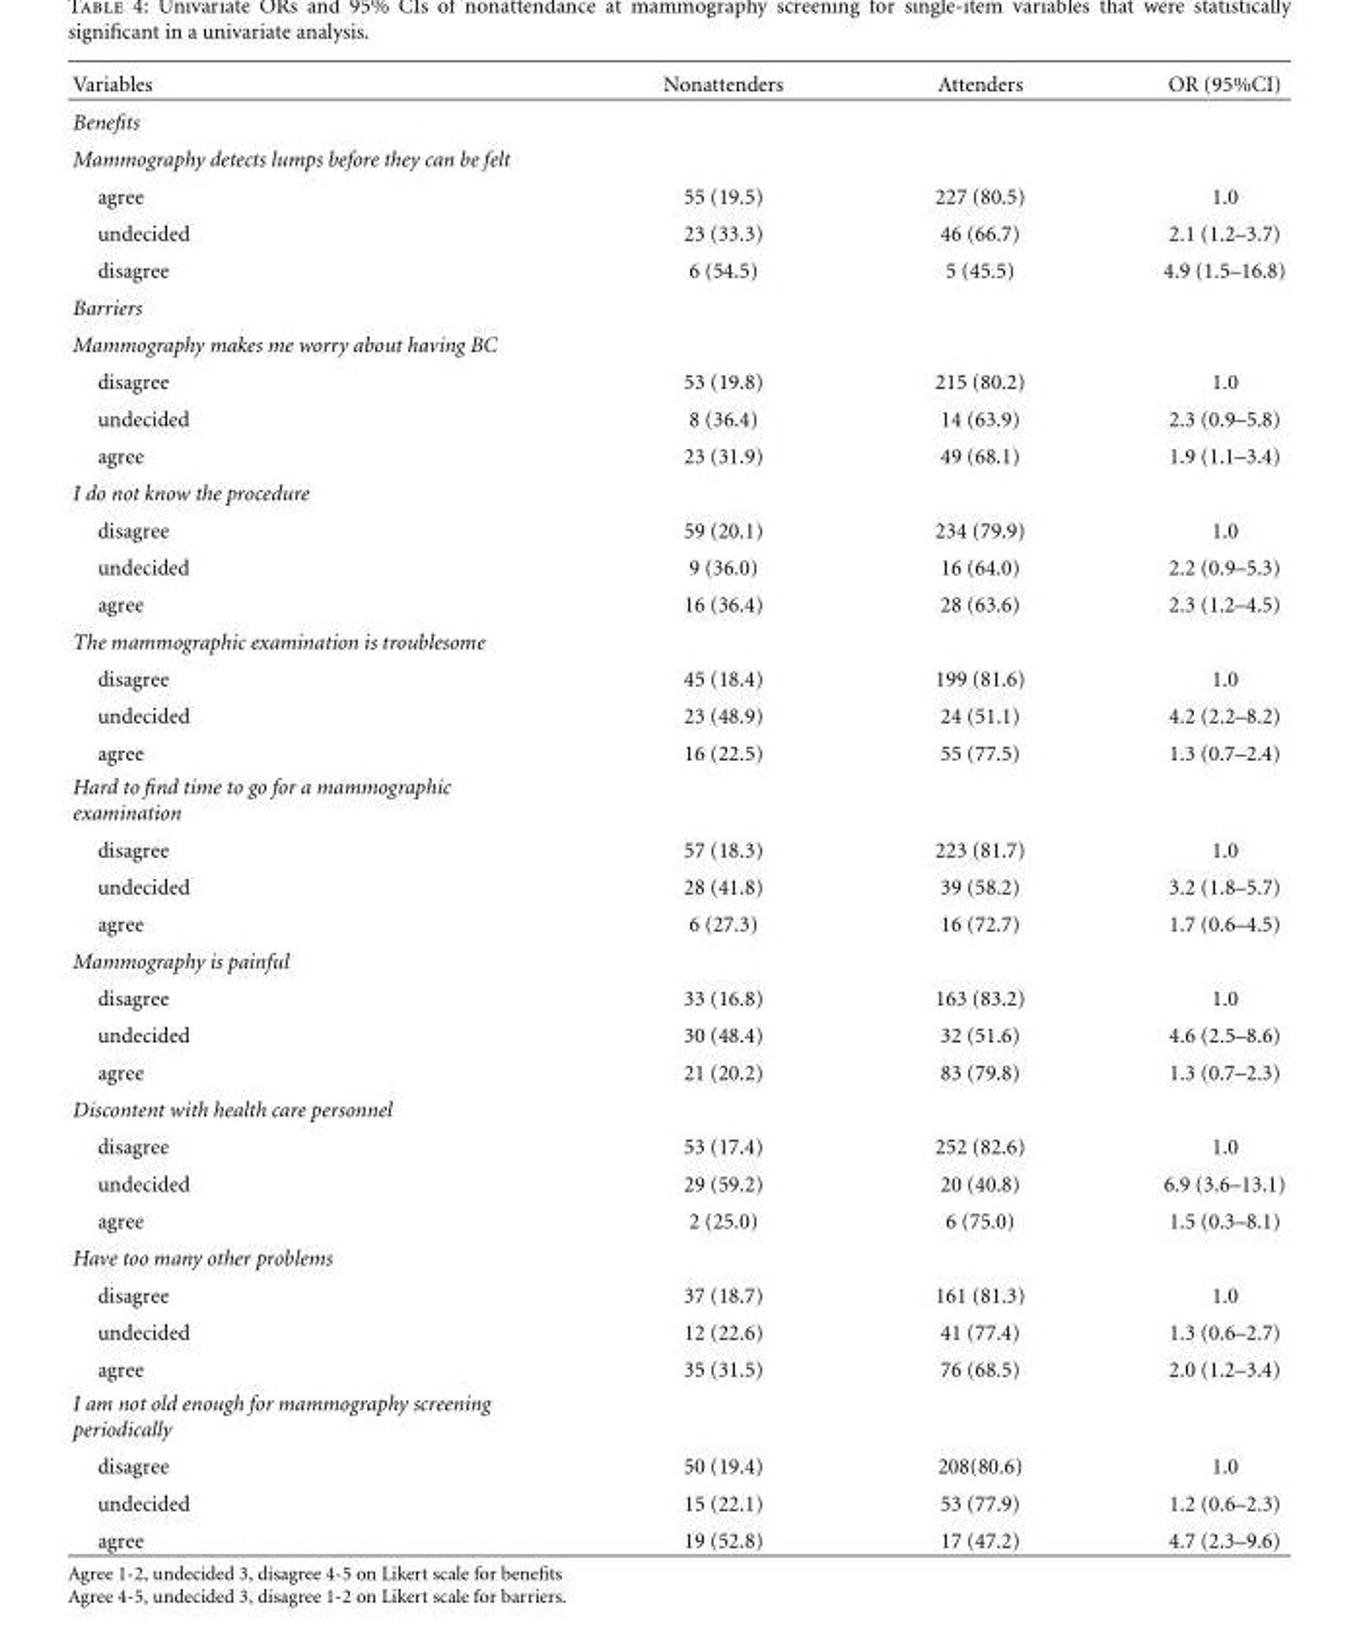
<table><thead><tr><td>Variables</td><td>Nonattenders</td><td>Attenders</td><td>OR (95%CI)</td></tr></thead><tbody><tr><td colspan="4">Benefits</td></tr><tr><td colspan="4">Mammography detects lumps before they can be felt</td></tr><tr><td>agree</td><td>55 (19.5)</td><td>227 (80.5)</td><td>1.0</td></tr><tr><td>undecided</td><td>23 (33.3)</td><td>46 (66.7)</td><td>2.1 (1.2–3.7)</td></tr><tr><td>disagree</td><td>6 (54.5)</td><td>5 (45.5)</td><td>4.9 (1.5–16.8)</td></tr><tr><td colspan="4">Barriers</td></tr><tr><td colspan="4">Mammography makes me worry about having BC</td></tr><tr><td>disagree</td><td>53 (19.8)</td><td>215 (80.2)</td><td>1.0</td></tr><tr><td>undecided</td><td>8 (36.4)</td><td>14 (63.9)</td><td>2.3 (0.9–5.8)</td></tr><tr><td>agree</td><td>23 (31.9)</td><td>49 (68.1)</td><td>1.9 (1.1–3.4)</td></tr><tr><td colspan="4">I do not know the procedure</td></tr><tr><td>disagree</td><td>59 (20.1)</td><td>234 (79.9)</td><td>1.0</td></tr><tr><td>undecided</td><td>9 (36.0)</td><td>16 (64.0)</td><td>2.2 (0.9–5.3)</td></tr><tr><td>agree</td><td>16 (36.4)</td><td>28 (63.6)</td><td>2.3 (1.2–4.5)</td></tr><tr><td colspan="4">The mammographic examination is troublesome</td></tr><tr><td>disagree</td><td>45 (18.4)</td><td>199 (81.6)</td><td>1.0</td></tr><tr><td>undecided</td><td>23 (48.9)</td><td>24 (51.1)</td><td>4.2 (2.2–8.2)</td></tr><tr><td>agree</td><td>16 (22.5)</td><td>55 (77.5)</td><td>1.3 (0.7–2.4)</td></tr><tr><td colspan="4">Hard to find time to go for a mammographic examination</td></tr><tr><td>disagree</td><td>57 (18.3)</td><td>223 (81.7)</td><td>1.0</td></tr><tr><td>undecided</td><td>28 (41.8)</td><td>39 (58.2)</td><td>3.2 (1.8–5.7)</td></tr><tr><td>agree</td><td>6 (27.3)</td><td>16 (72.7)</td><td>1.7 (0.6–4.5)</td></tr><tr><td colspan="4">Mammography is painful</td></tr><tr><td>disagree</td><td>33 (16.8)</td><td>163 (83.2)</td><td>1.0</td></tr><tr><td>undecided</td><td>30 (48.4)</td><td>32 (51.6)</td><td>4.6 (2.5–8.6)</td></tr><tr><td>agree</td><td>21 (20.2)</td><td>83 (79.8)</td><td>1.3 (0.7–2.3)</td></tr><tr><td colspan="4">Discontent with health care personnel</td></tr><tr><td>disagree</td><td>53 (17.4)</td><td>252 (82.6)</td><td>1.0</td></tr><tr><td>undecided</td><td>29 (59.2)</td><td>20 (40.8)</td><td>6.9 (3.6–13.1)</td></tr><tr><td>agree</td><td>2 (25.0)</td><td>6 (75.0)</td><td>1.5 (0.3–8.1)</td></tr><tr><td colspan="4">Have too many other problems</td></tr><tr><td>disagree</td><td>37 (18.7)</td><td>161 (81.3)</td><td>1.0</td></tr><tr><td>undecided</td><td>12 (22.6)</td><td>41 (77.4)</td><td>1.3 (0.6–2.7)</td></tr><tr><td>agree</td><td>35 (31.5)</td><td>76 (68.5)</td><td>2.0 (1.2–3.4)</td></tr><tr><td colspan="4">I am not old enough for mammography screening periodically</td></tr><tr><td>disagree</td><td>50 (19.4)</td><td>208(80.6)</td><td>1.0</td></tr><tr><td>undecided</td><td>15 (22.1)</td><td>53 (77.9)</td><td>1.2 (0.6–2.3)</td></tr><tr><td>agree</td><td>19 (52.8)</td><td>17 (47.2)</td><td>4.7 (2.3–9.6)</td></tr></tbody></table>